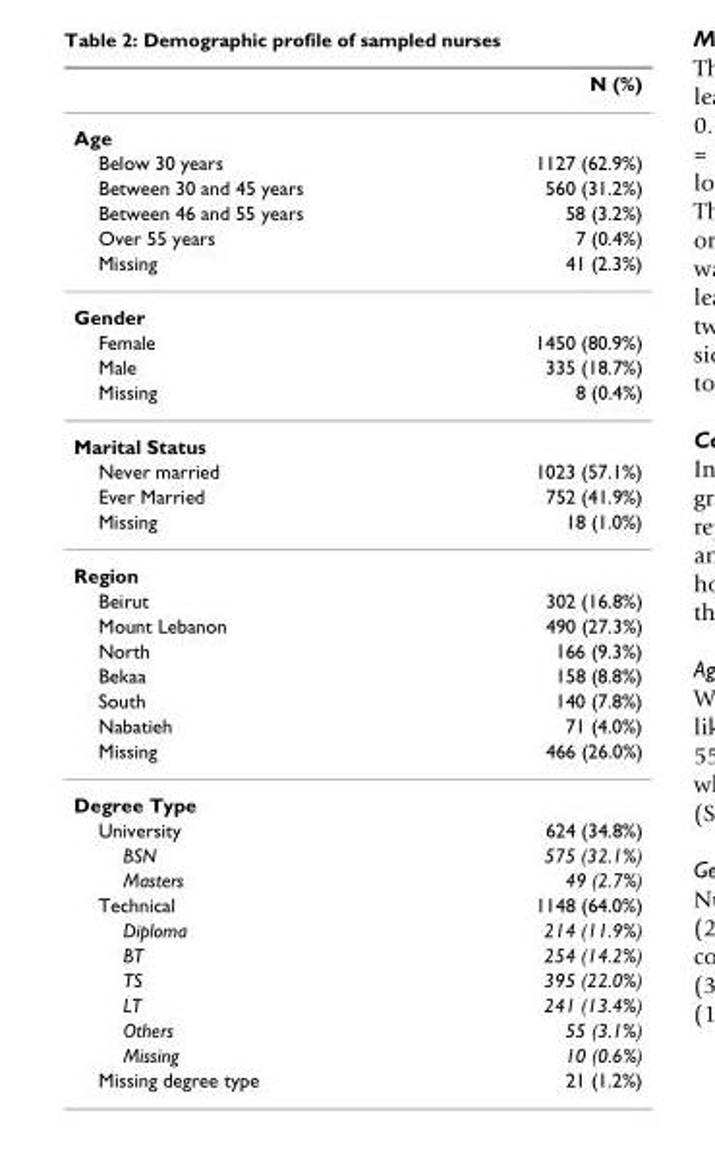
<table><thead><tr><td></td><td>N (%)</td></tr></thead><tbody><tr><td colspan="2">Age</td></tr><tr><td>Below 30 years</td><td>1127 (62.9%)</td></tr><tr><td>Between 30 and 45 years</td><td>560 (31.2%)</td></tr><tr><td>Between 46 and 55 years</td><td>58 (3.2%)</td></tr><tr><td>Over 55 years</td><td>7 (0.4%)</td></tr><tr><td>Missing</td><td>41 (2.3%)</td></tr><tr><td colspan="2">Gender</td></tr><tr><td>Female</td><td>1450 (80.9%)</td></tr><tr><td>Male</td><td>335 (18.7%)</td></tr><tr><td>Missing</td><td>8 (0.4%)</td></tr><tr><td colspan="2">Marital Status</td></tr><tr><td>Never married</td><td>1023 (57.1%)</td></tr><tr><td>Ever Married</td><td>752 (41.9%)</td></tr><tr><td>Missing</td><td>18 (1.0%)</td></tr><tr><td colspan="2">Region</td></tr><tr><td>Beirut</td><td>302 (16.8%)</td></tr><tr><td>Mount Lebanon</td><td>490 (27.3%)</td></tr><tr><td>North</td><td>166 (9.3%)</td></tr><tr><td>Bekaa</td><td>158 (8.8%)</td></tr><tr><td>South</td><td>140 (7.8%)</td></tr><tr><td>Nabatieh</td><td>71 (4.0%)</td></tr><tr><td>Missing</td><td>466 (26.0%)</td></tr><tr><td colspan="2">Degree Type</td></tr><tr><td>University</td><td>624 (34.8%)</td></tr><tr><td>BSN</td><td>575 (32.1%)</td></tr><tr><td>Masters</td><td>49 (2.7%)</td></tr><tr><td>Technical</td><td>1148 (64.0%)</td></tr><tr><td>Diploma</td><td>214 (11.9%)</td></tr><tr><td>BT</td><td>254 (14.2%)</td></tr><tr><td>TS</td><td>395 (22.0%)</td></tr><tr><td>LT</td><td>241 (13.4%)</td></tr><tr><td>Others</td><td>55 (3.1%)</td></tr><tr><td>Missing</td><td>10 (0.6%)</td></tr><tr><td>Missing degree type</td><td>21 (1.2%)</td></tr></tbody></table>